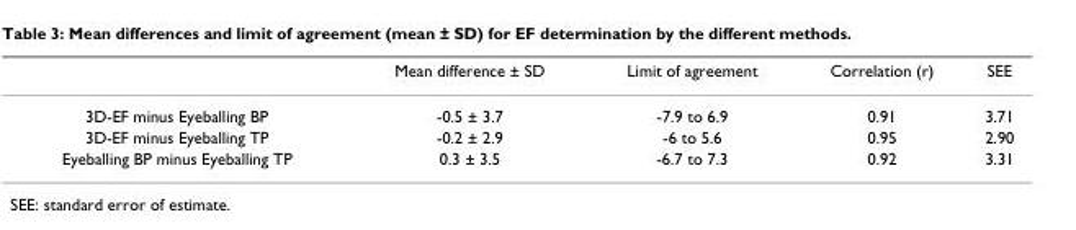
<table><thead><tr><td></td><td>Mean difference ± SD</td><td>Limit of agreement</td><td>Correlation (r)</td><td>SEE</td></tr></thead><tbody><tr><td>3D-EF minus Eyeballing BP</td><td>-0.5 ± 3.7</td><td>-7.9 to 6.9</td><td>0.91</td><td>3.71</td></tr><tr><td>3D-EF minus Eyeballing TP</td><td>-0.2 ± 2.9</td><td>-6 to 5.6</td><td>0.95</td><td>2.90</td></tr><tr><td>Eyeballing BP minus Eyeballing TP</td><td>0.3 ± 3.5</td><td>-6.7 to 7.3</td><td>0.92</td><td>3.31</td></tr></tbody></table>